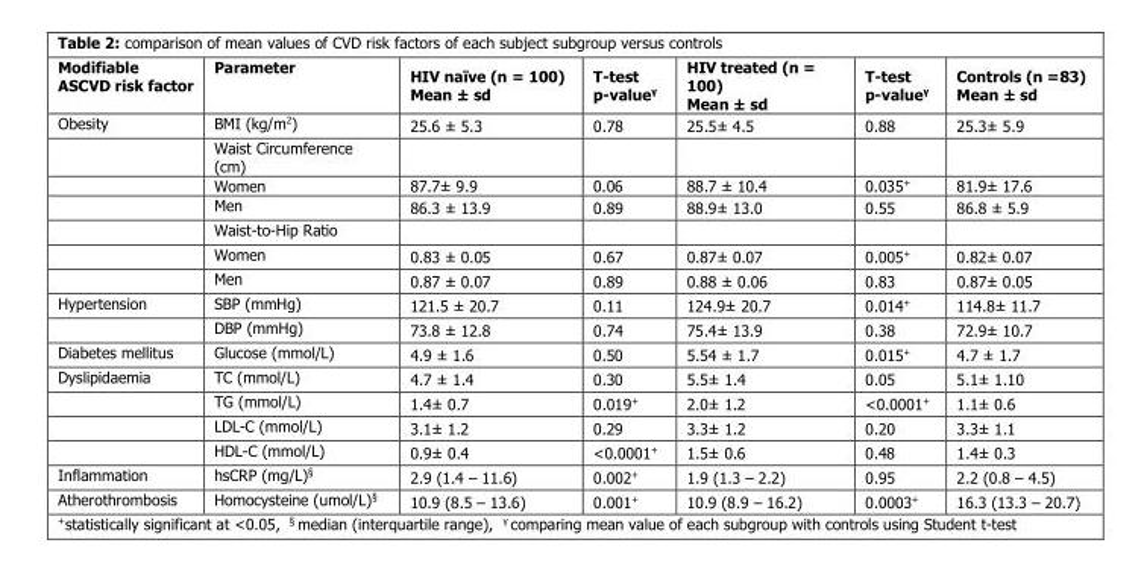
<table><thead><tr><td>Modifiable ASCVD risk factor</td><td>Parameter</td><td>HIV naïve (n = 100) Mean ± sd</td><td>T-test p-value<sup>γ</sup></td><td>HIV treated (n = 100) Mean ± sd</td><td>T-test p-value<sup>γ</sup></td><td>Controls (n =83) Mean ± sd</td></tr></thead><tbody><tr><td rowspan="7">Obesity</td><td>BMI (kg/m<sup>2</sup>)</td><td>25.6 ± 5.3</td><td>0.78</td><td>25.5± 4.5</td><td>0.88</td><td>25.3± 5.9</td></tr><tr><td>Waist Circumference (cm)</td><td></td><td></td><td></td><td></td><td></td></tr><tr><td>Women</td><td>87.7± 9.9</td><td>0.06</td><td>88.7 ± 10.4</td><td>0.035<sup>+</sup></td><td>81.9± 17.6</td></tr><tr><td>Men</td><td>86.3 ± 13.9</td><td>0.89</td><td>88.9± 13.0</td><td>0.55</td><td>86.8 ± 5.9</td></tr><tr><td>Waist-to-Hip Ratio</td><td></td><td></td><td></td><td></td><td></td></tr><tr><td>Women</td><td>0.83 ± 0.05</td><td>0.67</td><td>0.87± 0.07</td><td>0.005<sup>+</sup></td><td>0.82± 0.07</td></tr><tr><td>Men</td><td>0.87 ± 0.07</td><td>0.89</td><td>0.88 ± 0.06</td><td>0.83</td><td>0.87± 0.05</td></tr><tr><td rowspan="2">Hypertension</td><td>SBP (mmHg)</td><td>121.5 ± 20.7</td><td>0.11</td><td>124.9± 20.7</td><td>0.014<sup>+</sup></td><td>114.8± 11.7</td></tr><tr><td>DBP (mmHg)</td><td>73.8 ± 12.8</td><td>0.74</td><td>75.4± 13.9</td><td>0.38</td><td>72.9± 10.7</td></tr><tr><td>Diabetes mellitus</td><td>Glucose (mmol/L)</td><td>4.9 ± 1.6</td><td>0.50</td><td>5.54 ± 1.7</td><td>0.015<sup>+</sup></td><td>4.7 ± 1.7</td></tr><tr><td rowspan="4">Dyslipidaemia</td><td>TC (mmol/L)</td><td>4.7 ± 1.4</td><td>0.30</td><td>5.5± 1.4</td><td>0.05</td><td>5.1± 1.10</td></tr><tr><td>TG (mmol/L)</td><td>1.4± 0.7</td><td>0.019<sup>+</sup></td><td>2.0± 1.2</td><td>&lt;0.0001<sup>+</sup></td><td>1.1± 0.6</td></tr><tr><td>LDL-C (mmol/L)</td><td>3.1± 1.2</td><td>0.29</td><td>3.3± 1.2</td><td>0.20</td><td>3.3± 1.1</td></tr><tr><td>HDL-C (mmol/L)</td><td>0.9± 0.4</td><td>&lt;0.0001<sup>+</sup></td><td>1.5± 0.6</td><td>0.48</td><td>1.4± 0.3</td></tr><tr><td>Inflammation</td><td>hsCRP (mg/L)<sup>§</sup></td><td>2.9 (1.4 – 11.6)</td><td>0.002<sup>+</sup></td><td>1.9 (1.3 – 2.2)</td><td>0.95</td><td>2.2 (0.8 – 4.5)</td></tr><tr><td>Atherothrombosis</td><td>Homocysteine (umol/L)<sup>§</sup></td><td>10.9 (8.5 – 13.6)</td><td>0.001<sup>+</sup></td><td>10.9 (8.9 – 16.2)</td><td>0.0003<sup>+</sup></td><td>16.3 (13.3 – 20.7)</td></tr></tbody></table>